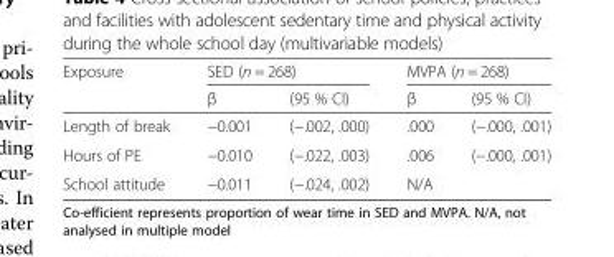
<table><thead><tr><td rowspan="2">Exposure</td><td colspan="2">SED (n = 268)</td><td colspan="2">MVPA (n = 268)</td></tr><tr><td>β</td><td>(95 % CI)</td><td>β</td><td>(95 % CI)</td></tr></thead><tbody><tr><td>Length of break</td><td>−0.001</td><td>(−.002, .000)</td><td>.000</td><td>(−.000, .001)</td></tr><tr><td>Hours of PE</td><td>−0.010</td><td>(−.022, .003)</td><td>.006</td><td>(−.000, .001)</td></tr><tr><td>School attitude</td><td>−0.011</td><td>(−.024, .002)</td><td>N/A</td><td></td></tr></tbody></table>